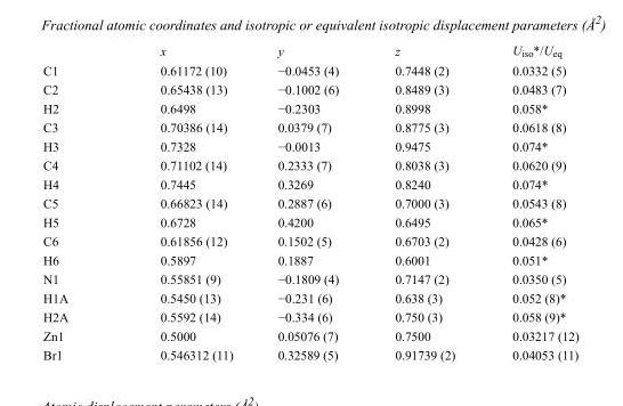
<table><thead><tr><td></td><td>x</td><td>y</td><td>z</td><td>U<sub>iso</sub>*/U<sub>eq</sub></td></tr></thead><tbody><tr><td>C1</td><td>0.61172 (10)</td><td>−0.0453 (4)</td><td>0.7448 (2)</td><td>0.0332 (5)</td></tr><tr><td>C2</td><td>0.65438 (13)</td><td>−0.1002 (6)</td><td>0.8489 (3)</td><td>0.0483 (7)</td></tr><tr><td>H2</td><td>0.6498</td><td>−0.2303</td><td>0.8998</td><td>0.058*</td></tr><tr><td>C3</td><td>0.70386 (14)</td><td>0.0379 (7)</td><td>0.8775 (3)</td><td>0.0618 (8)</td></tr><tr><td>H3</td><td>0.7328</td><td>−0.0013</td><td>0.9475</td><td>0.074*</td></tr><tr><td>C4</td><td>0.71102 (14)</td><td>0.2333 (7)</td><td>0.8038 (3)</td><td>0.0620 (9)</td></tr><tr><td>H4</td><td>0.7445</td><td>0.3269</td><td>0.8240</td><td>0.074*</td></tr><tr><td>C5</td><td>0.66823 (14)</td><td>0.2887 (6)</td><td>0.7000 (3)</td><td>0.0543 (8)</td></tr><tr><td>H5</td><td>0.6728</td><td>0.4200</td><td>0.6495</td><td>0.065*</td></tr><tr><td>C6</td><td>0.61856 (12)</td><td>0.1502 (5)</td><td>0.6703 (2)</td><td>0.0428 (6)</td></tr><tr><td>H6</td><td>0.5897</td><td>0.1887</td><td>0.6001</td><td>0.051*</td></tr><tr><td>N1</td><td>0.55851 (9)</td><td>−0.1809 (4)</td><td>0.7147 (2)</td><td>0.0350 (5)</td></tr><tr><td>H1A</td><td>0.5450 (13)</td><td>−0.231 (6)</td><td>0.638 (3)</td><td>0.052 (8)*</td></tr><tr><td>H2A</td><td>0.5592 (14)</td><td>−0.334 (6)</td><td>0.750 (3)</td><td>0.058 (9)*</td></tr><tr><td>Zn1</td><td>0.5000</td><td>0.05076 (7)</td><td>0.7500</td><td>0.03217 (12)</td></tr><tr><td>Br1</td><td>0.546312 (11)</td><td>0.32589 (5)</td><td>0.91739 (2)</td><td>0.04053 (11)</td></tr></tbody></table>